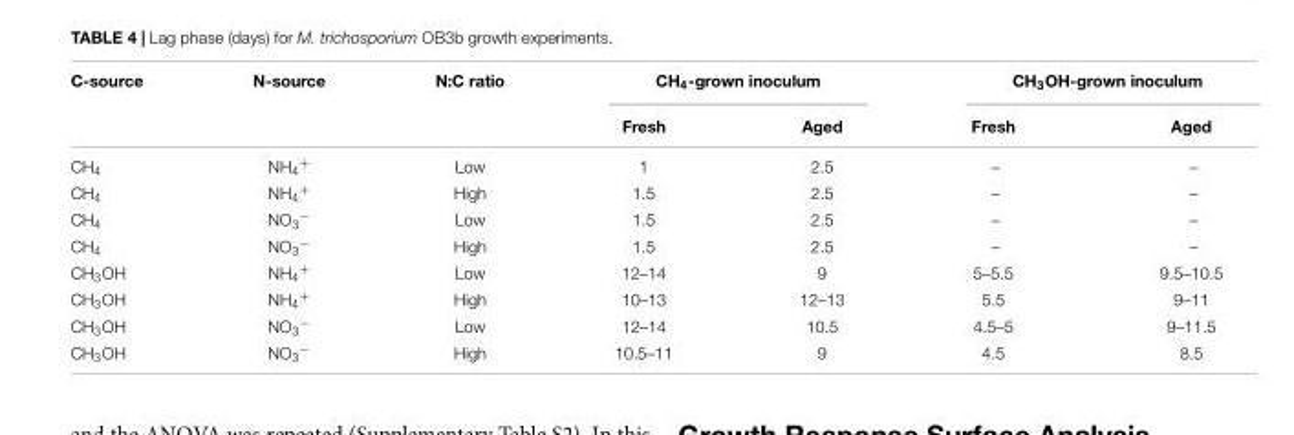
<table><thead><tr><td rowspan="2">C-source</td><td rowspan="2">N-source</td><td rowspan="2">N:C ratio</td><td colspan="2">CH<sub>4</sub>-grown inoculum</td><td colspan="2">CH<sub>3</sub>OH-grown inoculum</td></tr><tr><td>Fresh</td><td>Aged</td><td>Fresh</td><td>Aged</td></tr></thead><tbody><tr><td>CH<sub>4</sub></td><td>NH<sub>4</sub><sup>+</sup></td><td>Low</td><td>1</td><td>2.5</td><td>–</td><td>–</td></tr><tr><td>CH<sub>4</sub></td><td>NH<sub>4</sub><sup>+</sup></td><td>High</td><td>1.5</td><td>2.5</td><td>–</td><td>–</td></tr><tr><td>CH<sub>4</sub></td><td>NO<sub>3</sub><sup>−</sup></td><td>Low</td><td>1.5</td><td>2.5</td><td>–</td><td>–</td></tr><tr><td>CH<sub>4</sub></td><td>NO<sub>3</sub><sup>−</sup></td><td>High</td><td>1.5</td><td>2.5</td><td>–</td><td>–</td></tr><tr><td>CH<sub>3</sub>OH</td><td>NH<sub>4</sub><sup>+</sup></td><td>Low</td><td>12–14</td><td>9</td><td>5–5.5</td><td>9.5–10.5</td></tr><tr><td>CH<sub>3</sub>OH</td><td>NH<sub>4</sub><sup>+</sup></td><td>High</td><td>10–13</td><td>12–13</td><td>5.5</td><td>9–11</td></tr><tr><td>CH<sub>3</sub>OH</td><td>NO<sub>3</sub><sup>−</sup></td><td>Low</td><td>12–14</td><td>10.5</td><td>4.5–5</td><td>9–11.5</td></tr><tr><td>CH<sub>3</sub>OH</td><td>NO<sub>3</sub><sup>−</sup></td><td>High</td><td>10.5–11</td><td>9</td><td>4.5</td><td>8.5</td></tr></tbody></table>